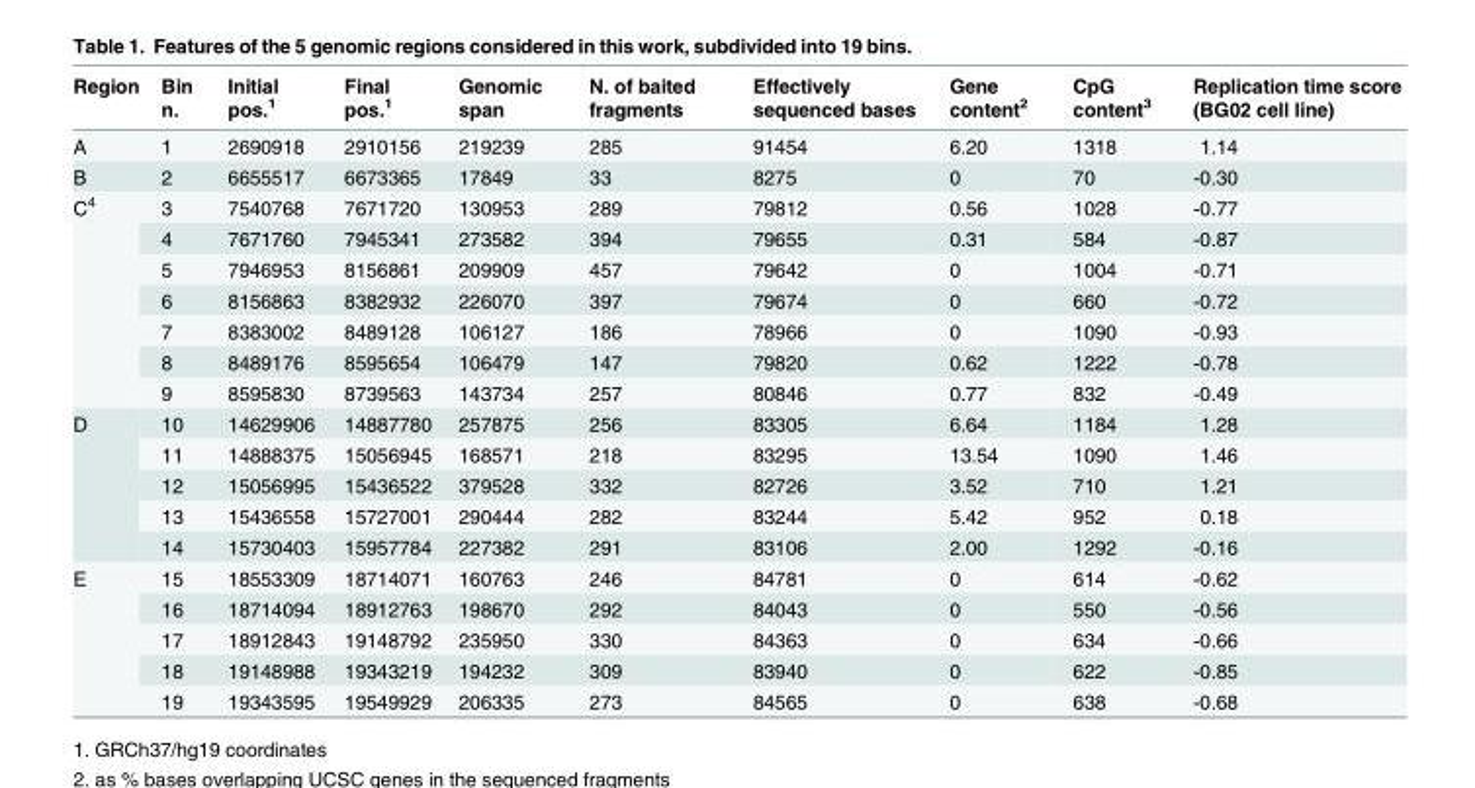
<table><thead><tr><td>Region</td><td>Bin n.</td><td>Initial pos.<sup>1</sup></td><td>Final pos.<sup>1</sup></td><td>Genomic span</td><td>N. of baited fragments</td><td>Effectively sequenced bases</td><td>Gene content<sup>2</sup></td><td>CpG content<sup>3</sup></td><td>Replication time score (BG02 cell line)</td></tr></thead><tbody><tr><td>A</td><td>1</td><td>2690918</td><td>2910156</td><td>219239</td><td>285</td><td>91454</td><td>6.20</td><td>1318</td><td>1.14</td></tr><tr><td>B</td><td>2</td><td>6655517</td><td>6673365</td><td>17849</td><td>33</td><td>8275</td><td>0</td><td>70</td><td>-0.30</td></tr><tr><td rowspan="7">C<sup>4</sup></td><td>3</td><td>7540768</td><td>7671720</td><td>130953</td><td>289</td><td>79812</td><td>0.56</td><td>1028</td><td>-0.77</td></tr><tr><td>4</td><td>7671760</td><td>7945341</td><td>273582</td><td>394</td><td>79655</td><td>0.31</td><td>584</td><td>-0.87</td></tr><tr><td>5</td><td>7946953</td><td>8156861</td><td>209909</td><td>457</td><td>79642</td><td>0</td><td>1004</td><td>-0.71</td></tr><tr><td>6</td><td>8156863</td><td>8382932</td><td>226070</td><td>397</td><td>79674</td><td>0</td><td>660</td><td>-0.72</td></tr><tr><td>7</td><td>8383002</td><td>8489128</td><td>106127</td><td>186</td><td>78966</td><td>0</td><td>1090</td><td>-0.93</td></tr><tr><td>8</td><td>8489176</td><td>8595654</td><td>106479</td><td>147</td><td>79820</td><td>0.62</td><td>1222</td><td>-0.78</td></tr><tr><td>9</td><td>8595830</td><td>8739563</td><td>143734</td><td>257</td><td>80846</td><td>0.77</td><td>832</td><td>-0.49</td></tr><tr><td rowspan="5">D</td><td>10</td><td>14629906</td><td>14887780</td><td>257875</td><td>256</td><td>83305</td><td>6.64</td><td>1184</td><td>1.28</td></tr><tr><td>11</td><td>14888375</td><td>15056945</td><td>168571</td><td>218</td><td>83295</td><td>13.54</td><td>1090</td><td>1.46</td></tr><tr><td>12</td><td>15056995</td><td>15436522</td><td>379528</td><td>332</td><td>82726</td><td>3.52</td><td>710</td><td>1.21</td></tr><tr><td>13</td><td>15436558</td><td>15727001</td><td>290444</td><td>282</td><td>83244</td><td>5.42</td><td>952</td><td>0.18</td></tr><tr><td>14</td><td>15730403</td><td>15957784</td><td>227382</td><td>291</td><td>83106</td><td>2.00</td><td>1292</td><td>-0.16</td></tr><tr><td rowspan="5">E</td><td>15</td><td>18553309</td><td>18714071</td><td>160763</td><td>246</td><td>84781</td><td>0</td><td>614</td><td>-0.62</td></tr><tr><td>16</td><td>18714094</td><td>18912763</td><td>198670</td><td>292</td><td>84043</td><td>0</td><td>550</td><td>-0.56</td></tr><tr><td>17</td><td>18912843</td><td>19148792</td><td>235950</td><td>330</td><td>84363</td><td>0</td><td>634</td><td>-0.66</td></tr><tr><td>18</td><td>19148988</td><td>19343219</td><td>194232</td><td>309</td><td>83940</td><td>0</td><td>622</td><td>-0.85</td></tr><tr><td>19</td><td>19343595</td><td>19549929</td><td>206335</td><td>273</td><td>84565</td><td>0</td><td>638</td><td>-0.68</td></tr></tbody></table>